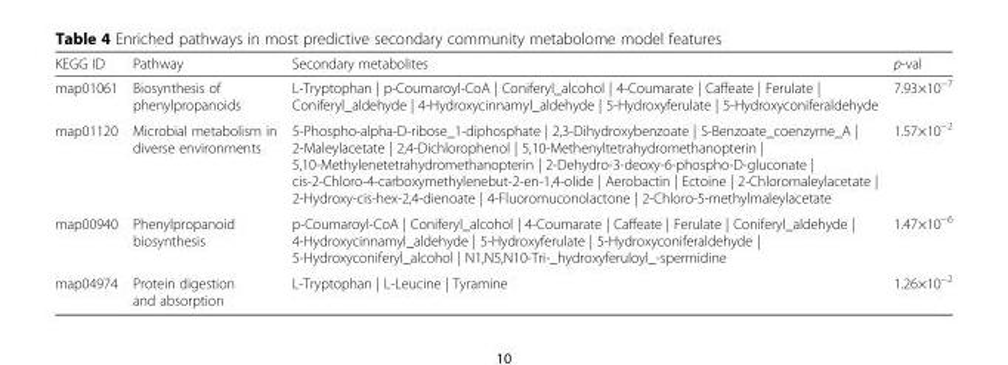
<table><thead><tr><td>KEGG ID</td><td>Pathway</td><td>Secondary metabolites</td><td>p-val</td></tr></thead><tbody><tr><td>map01061</td><td>Biosynthesis of phenylpropanoids</td><td>L-Tryptophan | p-Coumaroyl-CoA | Coniferyl_alcohol | 4-Coumarate | Caffeate | Ferulate | Coniferyl_aldehyde | 4-Hydroxycinnamyl_aldehyde | 5-Hydroxyferulate | 5-Hydroxyconiferaldehyde</td><td>7.93×10<sup>−7</sup></td></tr><tr><td>map01120</td><td>Microbial metabolism in diverse environments</td><td>5-Phospho-alpha-D-ribose_1-diphosphate | 2,3-Dihydroxybenzoate | S-Benzoate_coenzyme_A | 2-Maleylacetate | 2,4-Dichlorophenol | 5,10-Methenyltetrahydromethanopterin | 5,10-Methylenetetrahydromethanopterin | 2-Dehydro-3-deoxy-6-phospho-D-gluconate | cis-2-Chloro-4-carboxymethylenebut-2-en-1,4-olide | Aerobactin | Ectoine | 2-Chloromaleylacetate | 2-Hydroxy-cis-hex-2,4-dienoate | 4-Fluoromuconolactone | 2-Chloro-5-methylmaleylacetate</td><td>1.57×10<sup>−2</sup></td></tr><tr><td>map00940</td><td>Phenylpropanoid biosynthesis</td><td>p-Coumaroyl-CoA | Coniferyl_alcohol | 4-Coumarate | Caffeate | Ferulate | Coniferyl_aldehyde | 4-Hydroxycinnamyl_aldehyde | 5-Hydroxyferulate | 5-Hydroxyconiferaldehyde | 5-Hydroxyconiferyl_alcohol | N1,N5,N10-Tri-_hydroxyferuloyl_-spermidine</td><td>1.47×10<sup>−6</sup></td></tr><tr><td>map04974</td><td>Protein digestion and absorption</td><td>L-Tryptophan | L-Leucine | Tyramine</td><td>1.26×10<sup>−2</sup></td></tr></tbody></table>